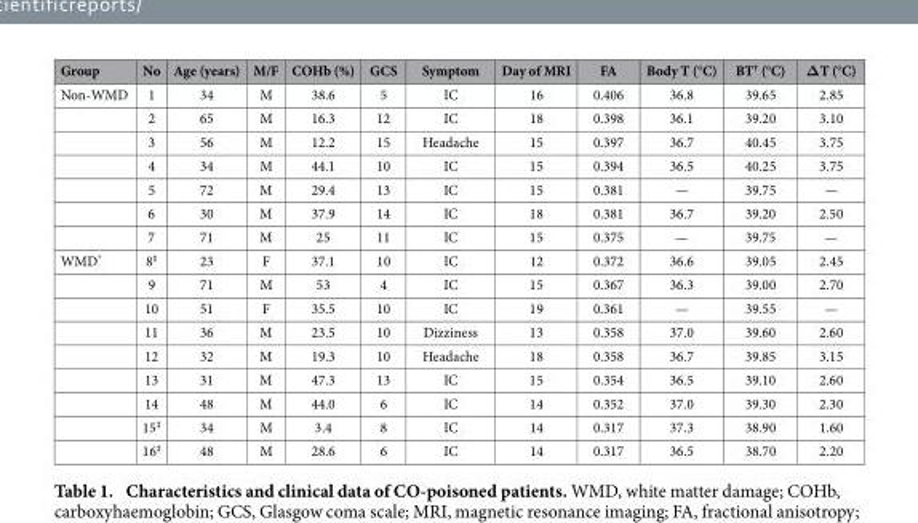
<table><thead><tr><td>Group</td><td>No</td><td>Age (years)</td><td>M/F</td><td>COHb (%)</td><td>GCS</td><td>Symptom</td><td>Day of MRI</td><td>FA</td><td>Body T (°C)</td><td>BT† (°C)</td><td>ΔT (°C)</td></tr></thead><tbody><tr><td rowspan="7">Non-WMD</td><td>1</td><td>34</td><td>M</td><td>38.6</td><td>5</td><td>IC</td><td>16</td><td>0.406</td><td>36.8</td><td>39.65</td><td>2.85</td></tr><tr><td>2</td><td>65</td><td>M</td><td>16.3</td><td>12</td><td>IC</td><td>18</td><td>0.398</td><td>36.1</td><td>39.20</td><td>3.10</td></tr><tr><td>3</td><td>56</td><td>M</td><td>12.2</td><td>15</td><td>Headache</td><td>15</td><td>0.397</td><td>36.7</td><td>40.45</td><td>3.75</td></tr><tr><td>4</td><td>34</td><td>M</td><td>44.1</td><td>10</td><td>IC</td><td>15</td><td>0.394</td><td>36.5</td><td>40.25</td><td>3.75</td></tr><tr><td>5</td><td>72</td><td>M</td><td>29.4</td><td>13</td><td>IC</td><td>15</td><td>0.381</td><td>—</td><td>39.75</td><td>—</td></tr><tr><td>6</td><td>30</td><td>M</td><td>37.9</td><td>14</td><td>IC</td><td>18</td><td>0.381</td><td>36.7</td><td>39.20</td><td>2.50</td></tr><tr><td>7</td><td>71</td><td>M</td><td>25</td><td>11</td><td>IC</td><td>15</td><td>0.375</td><td>—</td><td>39.75</td><td>—</td></tr><tr><td rowspan="9">WMD*</td><td>8‡</td><td>23</td><td>F</td><td>37.1</td><td>10</td><td>IC</td><td>12</td><td>0.372</td><td>36.6</td><td>39.05</td><td>2.45</td></tr><tr><td>9</td><td>71</td><td>M</td><td>53</td><td>4</td><td>IC</td><td>15</td><td>0.367</td><td>36.3</td><td>39.00</td><td>2.70</td></tr><tr><td>10</td><td>51</td><td>F</td><td>35.5</td><td>10</td><td>IC</td><td>19</td><td>0.361</td><td>—</td><td>39.55</td><td>—</td></tr><tr><td>11</td><td>36</td><td>M</td><td>23.5</td><td>10</td><td>Dizziness</td><td>13</td><td>0.358</td><td>37.0</td><td>39.60</td><td>2.60</td></tr><tr><td>12</td><td>32</td><td>M</td><td>19.3</td><td>10</td><td>Headache</td><td>18</td><td>0.358</td><td>36.7</td><td>39.85</td><td>3.15</td></tr><tr><td>13</td><td>31</td><td>M</td><td>47.3</td><td>13</td><td>IC</td><td>15</td><td>0.354</td><td>36.5</td><td>39.10</td><td>2.60</td></tr><tr><td>14</td><td>48</td><td>M</td><td>44.0</td><td>6</td><td>IC</td><td>14</td><td>0.352</td><td>37.0</td><td>39.30</td><td>2.30</td></tr><tr><td>15‡</td><td>34</td><td>M</td><td>3.4</td><td>8</td><td>IC</td><td>14</td><td>0.317</td><td>37.3</td><td>38.90</td><td>1.60</td></tr><tr><td>16‡</td><td>48</td><td>M</td><td>28.6</td><td>6</td><td>IC</td><td>14</td><td>0.317</td><td>36.5</td><td>38.70</td><td>2.20</td></tr></tbody></table>